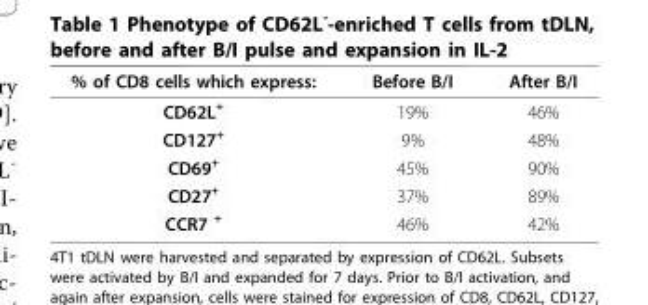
<table><thead><tr><td>% of CD8 cells which express:</td><td>Before B/I</td><td>After B/I</td></tr></thead><tbody><tr><td>CD62L<sup>+</sup></td><td>19%</td><td>46%</td></tr><tr><td>CD127<sup>+</sup></td><td>9%</td><td>48%</td></tr><tr><td>CD69<sup>+</sup></td><td>45%</td><td>90%</td></tr><tr><td>CD27<sup>+</sup></td><td>37%</td><td>89%</td></tr><tr><td>CCR7 <sup>+</sup></td><td>46%</td><td>42%</td></tr></tbody></table>